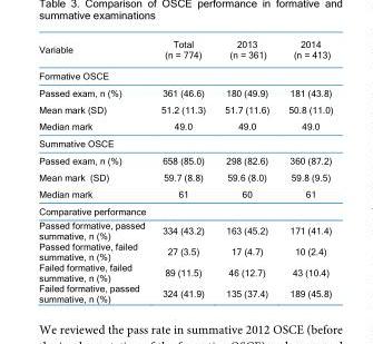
<table><thead><tr><td>Variable</td><td>Total (n = 774)</td><td>2013 (n = 361)</td><td>2014 (n = 413)</td></tr></thead><tbody><tr><td colspan="4">Formative OSCE</td></tr><tr><td>Passed exam, n (%)</td><td>361 (46.6)</td><td>180 (49.9)</td><td>181 (43.8)</td></tr><tr><td>Mean mark (SD)</td><td>51.2 (11.3)</td><td>51.7 (11.6)</td><td>50.8 (11.0)</td></tr><tr><td>Median mark</td><td>49.0</td><td>49.0</td><td>49.0</td></tr><tr><td colspan="4">Summative OSCE</td></tr><tr><td>Passed exam, n (%)</td><td>658 (85.0)</td><td>298 (82.6)</td><td>360 (87.2)</td></tr><tr><td>Mean mark (SD)</td><td>59.7 (8.8)</td><td>59.6 (8.0)</td><td>59.8 (9.5)</td></tr><tr><td>Median mark</td><td>61</td><td>60</td><td>61</td></tr><tr><td colspan="4">Comparative performance</td></tr><tr><td>Passed formative, passed summative, n (%)</td><td>334 (43.2)</td><td>163 (45.2)</td><td>171 (41.4)</td></tr><tr><td>Passed formative, failed summative, n (%)</td><td>27 (3.5)</td><td>17 (4.7)</td><td>10 (2.4)</td></tr><tr><td>Failed formative, failed summative, n (%)</td><td>89 (11.5)</td><td>46 (12.7)</td><td>43 (10.4)</td></tr><tr><td>Failed formative, passed summative, n (%)</td><td>324 (41.9)</td><td>135 (37.4)</td><td>189 (45.8)</td></tr></tbody></table>